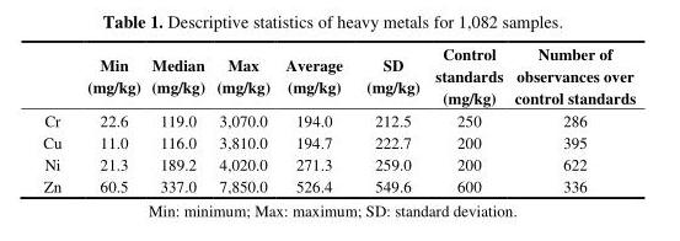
<table><thead><tr><td></td><td>Min (mg/kg)</td><td>Median (mg/kg)</td><td>Max (mg/kg)</td><td>Average (mg/kg)</td><td>SD (mg/kg)</td><td>Control standards (mg/kg)</td><td>Number of observances over control standards</td></tr></thead><tbody><tr><td>Cr</td><td>22.6</td><td>119.0</td><td>3,070.0</td><td>194.0</td><td>212.5</td><td>250</td><td>286</td></tr><tr><td>Cu</td><td>11.0</td><td>116.0</td><td>3,810.0</td><td>194.7</td><td>222.7</td><td>200</td><td>395</td></tr><tr><td>Ni</td><td>21.3</td><td>189.2</td><td>4,020.0</td><td>271.3</td><td>259.0</td><td>200</td><td>622</td></tr><tr><td>Zn</td><td>60.5</td><td>337.0</td><td>7,850.0</td><td>526.4</td><td>549.6</td><td>600</td><td>336</td></tr></tbody></table>